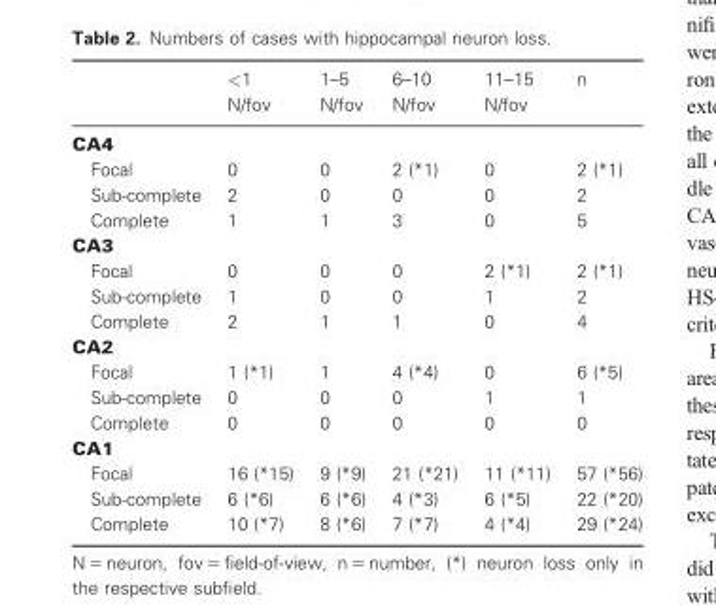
<table><thead><tr><td></td><td>&lt;1 N/fov</td><td>1–5 N/fov</td><td>6–10 N/fov</td><td>11–15 N/fov</td><td>n</td></tr></thead><tbody><tr><td colspan="6">CA4</td></tr><tr><td>Focal</td><td>0</td><td>0</td><td>2 (*1)</td><td>0</td><td>2 (*1)</td></tr><tr><td>Sub-complete</td><td>2</td><td>0</td><td>0</td><td>0</td><td>2</td></tr><tr><td>Complete</td><td>1</td><td>1</td><td>3</td><td>0</td><td>5</td></tr><tr><td colspan="6">CA3</td></tr><tr><td>Focal</td><td>0</td><td>0</td><td>0</td><td>2 (*1)</td><td>2 (*1)</td></tr><tr><td>Sub-complete</td><td>1</td><td>0</td><td>0</td><td>1</td><td>2</td></tr><tr><td>Complete</td><td>2</td><td>1</td><td>1</td><td>0</td><td>4</td></tr><tr><td colspan="6">CA2</td></tr><tr><td>Focal</td><td>1 (*1)</td><td>1</td><td>4 (*4)</td><td>0</td><td>6 (*5)</td></tr><tr><td>Sub-complete</td><td>0</td><td>0</td><td>0</td><td>1</td><td>1</td></tr><tr><td>Complete</td><td>0</td><td>0</td><td>0</td><td>0</td><td>0</td></tr><tr><td colspan="6">CA1</td></tr><tr><td>Focal</td><td>16 (*15)</td><td>9 (*9)</td><td>21 (*21)</td><td>11 (*11)</td><td>57 (*56)</td></tr><tr><td>Sub-complete</td><td>6 (*6)</td><td>6 (*6)</td><td>4 (*3)</td><td>6 (*5)</td><td>22 (*20)</td></tr><tr><td>Complete</td><td>10 (*7)</td><td>8 (*6)</td><td>7 (*7)</td><td>4 (*4)</td><td>29 (*24)</td></tr></tbody></table>